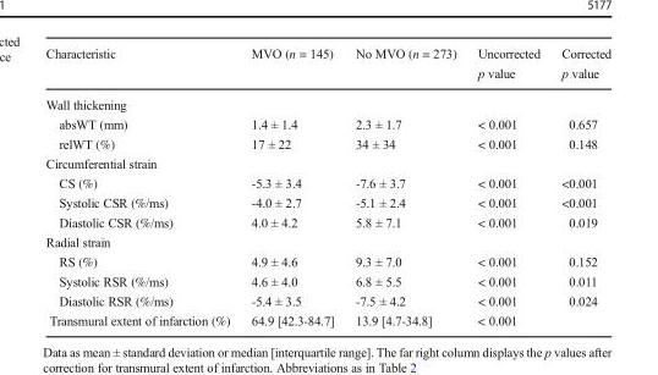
<table><thead><tr><td>Characteristic</td><td>MVO (n = 145)</td><td>No MVO (n = 273)</td><td>Uncorrected p value</td><td>Corrected p value</td></tr></thead><tbody><tr><td colspan="5">Wall thickening</td></tr><tr><td>absWT (mm)</td><td>1.4 ± 1.4</td><td>2.3 ± 1.7</td><td>&lt; 0.001</td><td>0.657</td></tr><tr><td>relWT (%)</td><td>17 ± 22</td><td>34 ± 34</td><td>&lt; 0.001</td><td>0.148</td></tr><tr><td colspan="5">Circumferential strain</td></tr><tr><td>CS (%)</td><td>-5.3 ± 3.4</td><td>-7.6 ± 3.7</td><td>&lt; 0.001</td><td>&lt;0.001</td></tr><tr><td>Systolic CSR (%/ms)</td><td>-4.0 ± 2.7</td><td>-5.1 ± 2.4</td><td>&lt; 0.001</td><td>&lt;0.001</td></tr><tr><td>Diastolic CSR (%/ms)</td><td>4.0 ± 4.2</td><td>5.8 ± 7.1</td><td>&lt; 0.001</td><td>0.019</td></tr><tr><td colspan="5">Radial strain</td></tr><tr><td>RS (%)</td><td>4.9 ± 4.6</td><td>9.3 ± 7.0</td><td>&lt; 0.001</td><td>0.152</td></tr><tr><td>Systolic RSR (%/ms)</td><td>4.6 ± 4.0</td><td>6.8 ± 5.5</td><td>&lt; 0.001</td><td>0.011</td></tr><tr><td>Diastolic RSR (%/ms)</td><td>-5.4 ± 3.5</td><td>-7.5 ± 4.2</td><td>&lt; 0.001</td><td>0.024</td></tr><tr><td>Transmural extent of infarction (%)</td><td>64.9 [42.3-84.7]</td><td>13.9 [4.7-34.8]</td><td>&lt; 0.001</td><td></td></tr></tbody></table>